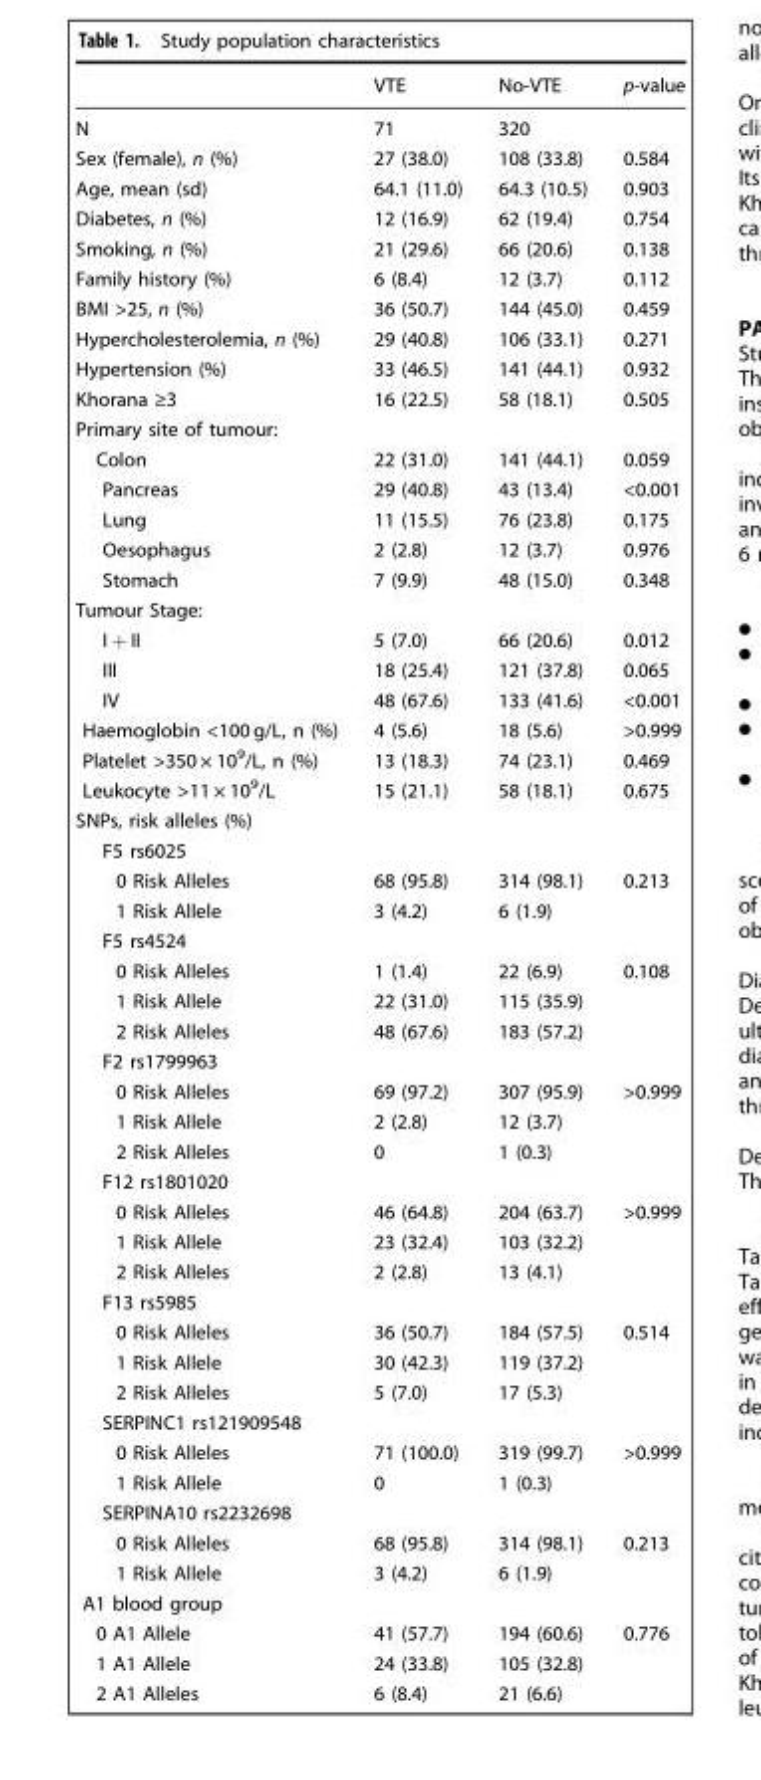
<table><thead><tr><td></td><td>VTE</td><td>No-VTE</td><td>p-value</td></tr></thead><tbody><tr><td>N</td><td>71</td><td>320</td><td></td></tr><tr><td>Sex (female), n (%)</td><td>27 (38.0)</td><td>108 (33.8)</td><td>0.584</td></tr><tr><td>Age, mean (sd)</td><td>64.1 (11.0)</td><td>64.3 (10.5)</td><td>0.903</td></tr><tr><td>Diabetes, n (%)</td><td>12 (16.9)</td><td>62 (19.4)</td><td>0.754</td></tr><tr><td>Smoking, n (%)</td><td>21 (29.6)</td><td>66 (20.6)</td><td>0.138</td></tr><tr><td>Family history (%)</td><td>6 (8.4)</td><td>12 (3.7)</td><td>0.112</td></tr><tr><td>BMI &gt;25, n (%)</td><td>36 (50.7)</td><td>144 (45.0)</td><td>0.459</td></tr><tr><td>Hypercholesterolemia, n (%)</td><td>29 (40.8)</td><td>106 (33.1)</td><td>0.271</td></tr><tr><td>Hypertension (%)</td><td>33 (46.5)</td><td>141 (44.1)</td><td>0.932</td></tr><tr><td>Khorana ≥3</td><td>16 (22.5)</td><td>58 (18.1)</td><td>0.505</td></tr><tr><td colspan="4">Primary site of tumour:</td></tr><tr><td>Colon</td><td>22 (31.0)</td><td>141 (44.1)</td><td>0.059</td></tr><tr><td>Pancreas</td><td>29 (40.8)</td><td>43 (13.4)</td><td>&lt;0.001</td></tr><tr><td>Lung</td><td>11 (15.5)</td><td>76 (23.8)</td><td>0.175</td></tr><tr><td>Oesophagus</td><td>2 (2.8)</td><td>12 (3.7)</td><td>0.976</td></tr><tr><td>Stomach</td><td>7 (9.9)</td><td>48 (15.0)</td><td>0.348</td></tr><tr><td colspan="4">Tumour Stage:</td></tr><tr><td>I + II</td><td>5 (7.0)</td><td>66 (20.6)</td><td>0.012</td></tr><tr><td>III</td><td>18 (25.4)</td><td>121 (37.8)</td><td>0.065</td></tr><tr><td>IV</td><td>48 (67.6)</td><td>133 (41.6)</td><td>&lt;0.001</td></tr><tr><td>Haemoglobin &lt;100 g/L, n (%)</td><td>4 (5.6)</td><td>18 (5.6)</td><td>&gt;0.999</td></tr><tr><td>Platelet &gt;350 × 10<sup>9</sup>/L, n (%)</td><td>13 (18.3)</td><td>74 (23.1)</td><td>0.469</td></tr><tr><td>Leukocyte &gt;11 × 10<sup>9</sup>/L</td><td>15 (21.1)</td><td>58 (18.1)</td><td>0.675</td></tr><tr><td colspan="4">SNPs, risk alleles (%)</td></tr><tr><td colspan="4">F5 rs6025</td></tr><tr><td>0 Risk Alleles</td><td>68 (95.8)</td><td>314 (98.1)</td><td>0.213</td></tr><tr><td>1 Risk Allele</td><td>3 (4.2)</td><td>6 (1.9)</td><td></td></tr><tr><td colspan="4">F5 rs4524</td></tr><tr><td>0 Risk Alleles</td><td>1 (1.4)</td><td>22 (6.9)</td><td>0.108</td></tr><tr><td>1 Risk Allele</td><td>22 (31.0)</td><td>115 (35.9)</td><td></td></tr><tr><td>2 Risk Alleles</td><td>48 (67.6)</td><td>183 (57.2)</td><td></td></tr><tr><td colspan="4">F2 rs1799963</td></tr><tr><td>0 Risk Alleles</td><td>69 (97.2)</td><td>307 (95.9)</td><td>&gt;0.999</td></tr><tr><td>1 Risk Allele</td><td>2 (2.8)</td><td>12 (3.7)</td><td></td></tr><tr><td>2 Risk Alleles</td><td>0</td><td>1 (0.3)</td><td></td></tr><tr><td colspan="4">F12 rs1801020</td></tr><tr><td>0 Risk Alleles</td><td>46 (64.8)</td><td>204 (63.7)</td><td>&gt;0.999</td></tr><tr><td>1 Risk Allele</td><td>23 (32.4)</td><td>103 (32.2)</td><td></td></tr><tr><td>2 Risk Alleles</td><td>2 (2.8)</td><td>13 (4.1)</td><td></td></tr><tr><td colspan="4">F13 rs5985</td></tr><tr><td>0 Risk Alleles</td><td>36 (50.7)</td><td>184 (57.5)</td><td>0.514</td></tr><tr><td>1 Risk Allele</td><td>30 (42.3)</td><td>119 (37.2)</td><td></td></tr><tr><td>2 Risk Alleles</td><td>5 (7.0)</td><td>17 (5.3)</td><td></td></tr><tr><td colspan="4">SERPINC1 rs121909548</td></tr><tr><td>0 Risk Alleles</td><td>71 (100.0)</td><td>319 (99.7)</td><td>&gt;0.999</td></tr><tr><td>1 Risk Allele</td><td>0</td><td>1 (0.3)</td><td></td></tr><tr><td colspan="4">SERPINA10 rs2232698</td></tr><tr><td>0 Risk Alleles</td><td>68 (95.8)</td><td>314 (98.1)</td><td>0.213</td></tr><tr><td>1 Risk Allele</td><td>3 (4.2)</td><td>6 (1.9)</td><td></td></tr><tr><td colspan="4">A1 blood group</td></tr><tr><td>0 A1 Allele</td><td>41 (57.7)</td><td>194 (60.6)</td><td>0.776</td></tr><tr><td>1 A1 Allele</td><td>24 (33.8)</td><td>105 (32.8)</td><td></td></tr><tr><td>2 A1 Alleles</td><td>6 (8.4)</td><td>21 (6.6)</td><td></td></tr></tbody></table>